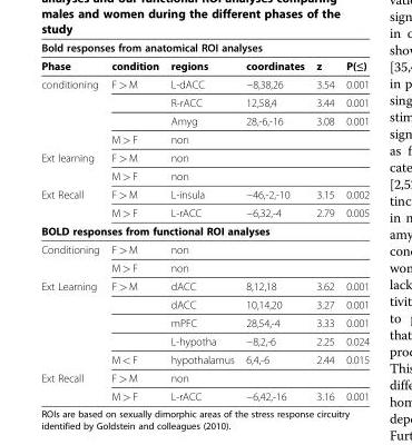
<table><thead><tr><td colspan="6">Bold responses from anatomical ROI analyses</td></tr><tr><td>Phase</td><td>condition</td><td>regions</td><td>coordinates</td><td>z</td><td>P(≤)</td></tr></thead><tbody><tr><td rowspan="4">conditioning</td><td>F &gt; M</td><td>L-dACC</td><td>−8,38,26</td><td>3.54</td><td>0.001</td></tr><tr><td></td><td>R-rACC</td><td>12,58,4</td><td>3.44</td><td>0.001</td></tr><tr><td></td><td>Amyg</td><td>28,-6,-16</td><td>3.08</td><td>0.001</td></tr><tr><td>M &gt; F</td><td>non</td><td></td><td></td><td></td></tr><tr><td rowspan="2">Ext learning</td><td>F &gt; M</td><td>non</td><td></td><td></td><td></td></tr><tr><td>M &gt; F</td><td>non</td><td></td><td></td><td></td></tr><tr><td rowspan="2">Ext Recall</td><td>F &gt; M</td><td>L-insula</td><td>−46,-2,-10</td><td>3.15</td><td>0.002</td></tr><tr><td>M &gt; F</td><td>L-rACC</td><td>−6,32,-4</td><td>2.79</td><td>0.005</td></tr><tr><td colspan="6">BOLD responses from functional ROI analyses</td></tr><tr><td rowspan="2">Conditioning</td><td>F &gt; M</td><td>non</td><td></td><td></td><td></td></tr><tr><td>M &gt; F</td><td>non</td><td></td><td></td><td></td></tr><tr><td rowspan="5">Ext Learning</td><td>F &gt; M</td><td>dACC</td><td>8,12,18</td><td>3.62</td><td>0.001</td></tr><tr><td></td><td>dACC</td><td>10,14,20</td><td>3.27</td><td>0.001</td></tr><tr><td></td><td>mPFC</td><td>28,54,-4</td><td>3.33</td><td>0.001</td></tr><tr><td></td><td>L-hypotha</td><td>−8,2,-6</td><td>2.25</td><td>0.024</td></tr><tr><td>M &lt; F</td><td>hypothalamus</td><td>6,4,-6</td><td>2.44</td><td>0.015</td></tr><tr><td rowspan="2">Ext Recall</td><td>F &gt; M</td><td>non</td><td></td><td></td><td></td></tr><tr><td>M &gt; F</td><td>L-rACC</td><td>−6,42,-16</td><td>3.16</td><td>0.001</td></tr></tbody></table>